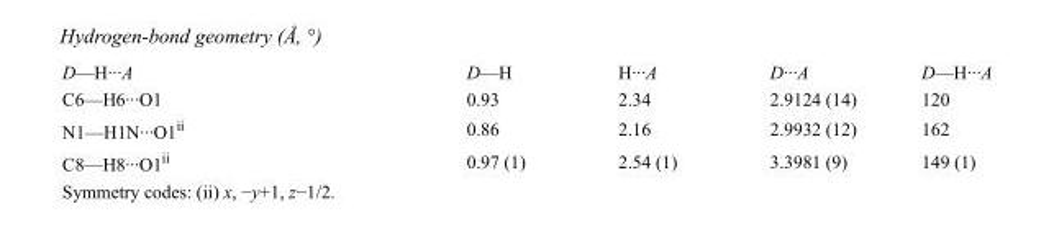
<table><tbody><tr><td>D—H···A</td><td>D—H</td><td>H···A</td><td>D···A</td><td>D—H···A</td></tr><tr><td>C6—H6···O1</td><td>0.93</td><td>2.34</td><td>2.9124 (14)</td><td>120</td></tr><tr><td>N1—H1N···O1<sup>ii</sup></td><td>0.86</td><td>2.16</td><td>2.9932 (12)</td><td>162</td></tr><tr><td>C8—H8···O1<sup>ii</sup></td><td>0.97 (1)</td><td>2.54 (1)</td><td>3.3981 (9)</td><td>149 (1)</td></tr></tbody></table>